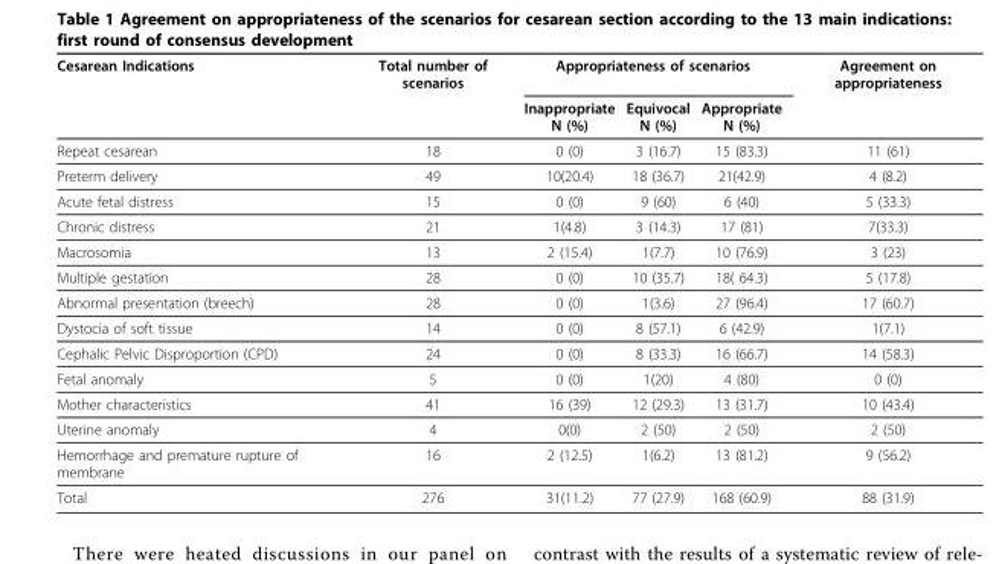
<table><thead><tr><td rowspan="2">Cesarean Indications</td><td rowspan="2">Total number of scenarios</td><td colspan="3">Appropriateness of scenarios</td><td rowspan="2">Agreement on appropriateness</td></tr><tr><td>Inappropriate N (%)</td><td>Equivocal N (%)</td><td>Appropriate N (%)</td></tr></thead><tbody><tr><td>Repeat cesarean</td><td>18</td><td>0 (0)</td><td>3 (16.7)</td><td>15 (83.3)</td><td>11 (61)</td></tr><tr><td>Preterm delivery</td><td>49</td><td>10(20.4)</td><td>18 (36.7)</td><td>21(42.9)</td><td>4 (8.2)</td></tr><tr><td>Acute fetal distress</td><td>15</td><td>0 (0)</td><td>9 (60)</td><td>6 (40)</td><td>5 (33.3)</td></tr><tr><td>Chronic distress</td><td>21</td><td>1(4.8)</td><td>3 (14.3)</td><td>17 (81)</td><td>7(33.3)</td></tr><tr><td>Macrosomia</td><td>13</td><td>2 (15.4)</td><td>1(7.7)</td><td>10 (76.9)</td><td>3 (23)</td></tr><tr><td>Multiple gestation</td><td>28</td><td>0 (0)</td><td>10 (35.7)</td><td>18( 64.3)</td><td>5 (17.8)</td></tr><tr><td>Abnormal presentation (breech)</td><td>28</td><td>0 (0)</td><td>1(3.6)</td><td>27 (96.4)</td><td>17 (60.7)</td></tr><tr><td>Dystocia of soft tissue</td><td>14</td><td>0 (0)</td><td>8 (57.1)</td><td>6 (42.9)</td><td>1(7.1)</td></tr><tr><td>Cephalic Pelvic Disproportion (CPD)</td><td>24</td><td>0 (0)</td><td>8 (33.3)</td><td>16 (66.7)</td><td>14 (58.3)</td></tr><tr><td>Fetal anomaly</td><td>5</td><td>0 (0)</td><td>1(20)</td><td>4 (80)</td><td>0 (0)</td></tr><tr><td>Mother characteristics</td><td>41</td><td>16 (39)</td><td>12 (29.3)</td><td>13 (31.7)</td><td>10 (43.4)</td></tr><tr><td>Uterine anomaly</td><td>4</td><td>0(0)</td><td>2 (50)</td><td>2 (50)</td><td>2 (50)</td></tr><tr><td>Hemorrhage and premature rupture of membrane</td><td>16</td><td>2 (12.5)</td><td>1(6.2)</td><td>13 (81.2)</td><td>9 (56.2)</td></tr><tr><td>Total</td><td>276</td><td>31(11.2)</td><td>77 (27.9)</td><td>168 (60.9)</td><td>88 (31.9)</td></tr></tbody></table>